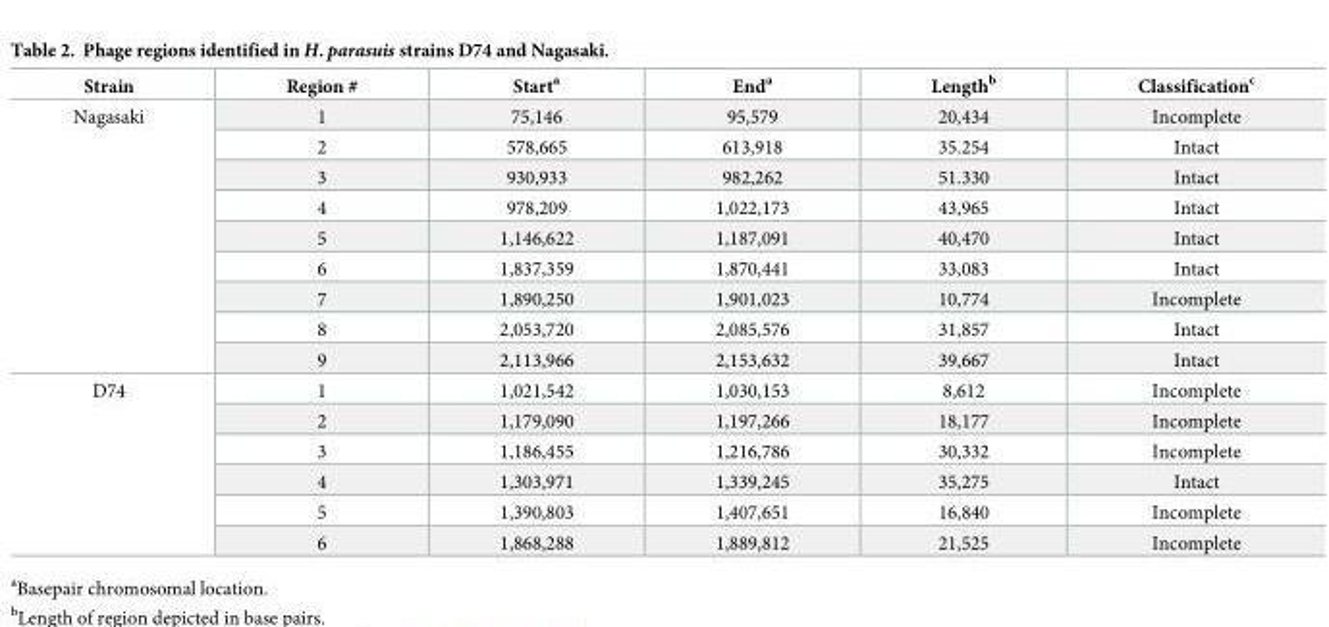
<table><thead><tr><td>Strain</td><td>Region #</td><td>Start<sup>a</sup></td><td>End<sup>a</sup></td><td>Length<sup>b</sup></td><td>Classification<sup>c</sup></td></tr></thead><tbody><tr><td rowspan="9">Nagasaki</td><td>1</td><td>75,146</td><td>95,579</td><td>20,434</td><td>Incomplete</td></tr><tr><td>2</td><td>578,665</td><td>613,918</td><td>35.254</td><td>Intact</td></tr><tr><td>3</td><td>930,933</td><td>982,262</td><td>51.330</td><td>Intact</td></tr><tr><td>4</td><td>978,209</td><td>1,022,173</td><td>43,965</td><td>Intact</td></tr><tr><td>5</td><td>1,146,622</td><td>1,187,091</td><td>40,470</td><td>Intact</td></tr><tr><td>6</td><td>1,837,359</td><td>1,870,441</td><td>33,083</td><td>Intact</td></tr><tr><td>7</td><td>1,890,250</td><td>1,901,023</td><td>10,774</td><td>Incomplete</td></tr><tr><td>8</td><td>2,053,720</td><td>2,085,576</td><td>31,857</td><td>Intact</td></tr><tr><td>9</td><td>2,113,966</td><td>2,153,632</td><td>39,667</td><td>Intact</td></tr><tr><td rowspan="6">D74</td><td>1</td><td>1,021,542</td><td>1,030,153</td><td>8,612</td><td>Incomplete</td></tr><tr><td>2</td><td>1,179,090</td><td>1,197,266</td><td>18,177</td><td>Incomplete</td></tr><tr><td>3</td><td>1,186,455</td><td>1,216,786</td><td>30,332</td><td>Incomplete</td></tr><tr><td>4</td><td>1,303,971</td><td>1,339,245</td><td>35,275</td><td>Intact</td></tr><tr><td>5</td><td>1,390,803</td><td>1,407,651</td><td>16,840</td><td>Incomplete</td></tr><tr><td>6</td><td>1,868,288</td><td>1,889,812</td><td>21,525</td><td>Incomplete</td></tr></tbody></table>